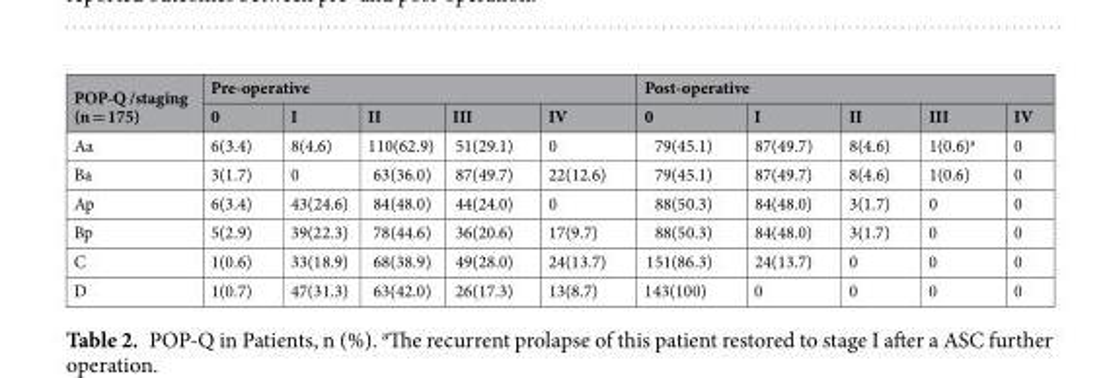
<table><thead><tr><td rowspan="2">POP-Q /staging (n = 175)</td><td colspan="5">Pre-operative</td><td colspan="5">Post-operative</td></tr><tr><td>0</td><td>I</td><td>II</td><td>III</td><td>IV</td><td>0</td><td>I</td><td>II</td><td>III</td><td>IV</td></tr></thead><tbody><tr><td>Aa</td><td>6(3.4)</td><td>8(4.6)</td><td>110(62.9)</td><td>51(29.1)</td><td>0</td><td>79(45.1)</td><td>87(49.7)</td><td>8(4.6)</td><td>1(0.6)<sup>a</sup></td><td>0</td></tr><tr><td>Ba</td><td>3(1.7)</td><td>0</td><td>63(36.0)</td><td>87(49.7)</td><td>22(12.6)</td><td>79(45.1)</td><td>87(49.7)</td><td>8(4.6)</td><td>1(0.6)</td><td>0</td></tr><tr><td>Ap</td><td>6(3.4)</td><td>43(24.6)</td><td>84(48.0)</td><td>44(24.0)</td><td>0</td><td>88(50.3)</td><td>84(48.0)</td><td>3(1.7)</td><td>0</td><td>0</td></tr><tr><td>Bp</td><td>5(2.9)</td><td>39(22.3)</td><td>78(44.6)</td><td>36(20.6)</td><td>17(9.7)</td><td>88(50.3)</td><td>84(48.0)</td><td>3(1.7)</td><td>0</td><td>0</td></tr><tr><td>C</td><td>1(0.6)</td><td>33(18.9)</td><td>68(38.9)</td><td>49(28.0)</td><td>24(13.7)</td><td>151(86.3)</td><td>24(13.7)</td><td>0</td><td>0</td><td>0</td></tr><tr><td>D</td><td>1(0.7)</td><td>47(31.3)</td><td>63(42.0)</td><td>26(17.3)</td><td>13(8.7)</td><td>143(100)</td><td>0</td><td>0</td><td>0</td><td>0</td></tr></tbody></table>